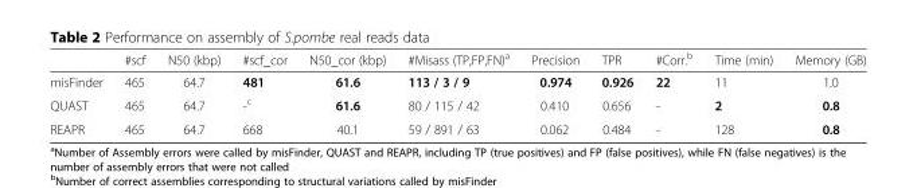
<table><thead><tr><td></td><td>#scf</td><td>N50 (kbp)</td><td>#scf_cor</td><td>N50_cor (kbp)</td><td>#Misass (TP,FP,FN)<sup>a</sup></td><td>Precision</td><td>TPR</td><td>#Corr.<sup>b</sup></td><td>Time (min)</td><td>Memory (GB)</td></tr></thead><tbody><tr><td>misFinder</td><td>465</td><td>64.7</td><td>481</td><td>61.6</td><td>113 / 3 / 9</td><td>0.974</td><td>0.926</td><td>22</td><td>11</td><td>1.0</td></tr><tr><td>QUAST</td><td>465</td><td>64.7</td><td>-<sup>c</sup></td><td>61.6</td><td>80 / 115 / 42</td><td>0.410</td><td>0.656</td><td>-</td><td>2</td><td>0.8</td></tr><tr><td>REAPR</td><td>465</td><td>64.7</td><td>668</td><td>40.1</td><td>59 / 891 / 63</td><td>0.062</td><td>0.484</td><td>-</td><td>128</td><td>0.8</td></tr></tbody></table>